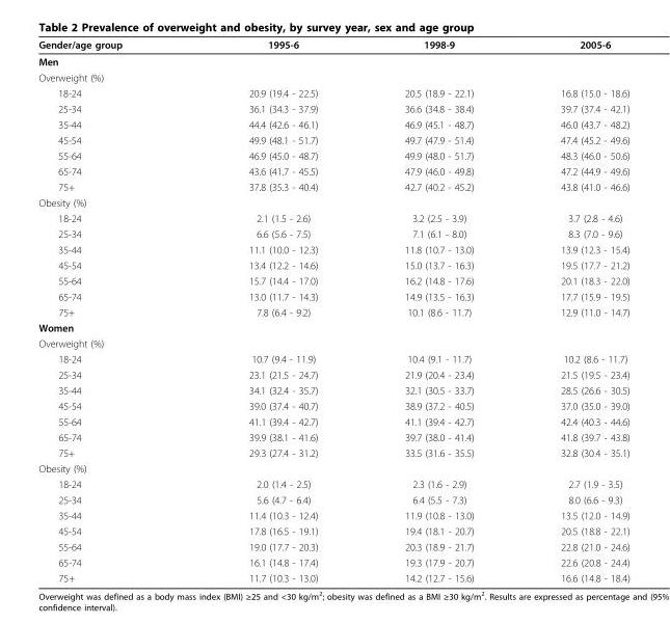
<table><thead><tr><td>Gender/age group</td><td>1995-6</td><td>1998-9</td><td>2005-6</td></tr></thead><tbody><tr><td colspan="4">Men</td></tr><tr><td colspan="4">Overweight (%)</td></tr><tr><td>18-24</td><td>20.9 (19.4 - 22.5)</td><td>20.5 (18.9 - 22.1)</td><td>16.8 (15.0 - 18.6)</td></tr><tr><td>25-34</td><td>36.1 (34.3 - 37.9)</td><td>36.6 (34.8 - 38.4)</td><td>39.7 (37.4 - 42.1)</td></tr><tr><td>35-44</td><td>44.4 (42.6 - 46.1)</td><td>46.9 (45.1 - 48.7)</td><td>46.0 (43.7 - 48.2)</td></tr><tr><td>45-54</td><td>49.9 (48.1 - 51.7)</td><td>49.7 (47.9 - 51.4)</td><td>47.4 (45.2 - 49.6)</td></tr><tr><td>55-64</td><td>46.9 (45.0 - 48.7)</td><td>49.9 (48.0 - 51.7)</td><td>48.3 (46.0 - 50.6)</td></tr><tr><td>65-74</td><td>43.6 (41.7 - 45.5)</td><td>47.9 (46.0 - 49.8)</td><td>47.2 (44.9 - 49.6)</td></tr><tr><td>75+</td><td>37.8 (35.3 - 40.4)</td><td>42.7 (40.2 - 45.2)</td><td>43.8 (41.0 - 46.6)</td></tr><tr><td colspan="4">Obesity (%)</td></tr><tr><td>18-24</td><td>2.1 (1.5 - 2.6)</td><td>3.2 (2.5 - 3.9)</td><td>3.7 (2.8 - 4.6)</td></tr><tr><td>25-34</td><td>6.6 (5.6 - 7.5)</td><td>7.1 (6.1 - 8.0)</td><td>8.3 (7.0 - 9.6)</td></tr><tr><td>35-44</td><td>11.1 (10.0 - 12.3)</td><td>11.8 (10.7 - 13.0)</td><td>13.9 (12.3 - 15.4)</td></tr><tr><td>45-54</td><td>13.4 (12.2 - 14.6)</td><td>15.0 (13.7 - 16.3)</td><td>19.5 (17.7 - 21.2)</td></tr><tr><td>55-64</td><td>15.7 (14.4 - 17.0)</td><td>16.2 (14.8 - 17.6)</td><td>20.1 (18.3 - 22.0)</td></tr><tr><td>65-74</td><td>13.0 (11.7 - 14.3)</td><td>14.9 (13.5 - 16.3)</td><td>17.7 (15.9 - 19.5)</td></tr><tr><td>75+</td><td>7.8 (6.4 - 9.2)</td><td>10.1 (8.6 - 11.7)</td><td>12.9 (11.0 - 14.7)</td></tr><tr><td colspan="4">Women</td></tr><tr><td colspan="4">Overweight (%)</td></tr><tr><td>18-24</td><td>10.7 (9.4 - 11.9)</td><td>10.4 (9.1 - 11.7)</td><td>10.2 (8.6 - 11.7)</td></tr><tr><td>25-34</td><td>23.1 (21.5 - 24.7)</td><td>21.9 (20.4 - 23.4)</td><td>21.5 (19.5 - 23.4)</td></tr><tr><td>35-44</td><td>34.1 (32.4 - 35.7)</td><td>32.1 (30.5 - 33.7)</td><td>28.5 (26.6 - 30.5)</td></tr><tr><td>45-54</td><td>39.0 (37.4 - 40.7)</td><td>38.9 (37.2 - 40.5)</td><td>37.0 (35.0 - 39.0)</td></tr><tr><td>55-64</td><td>41.1 (39.4 - 42.7)</td><td>41.1 (39.4 - 42.7)</td><td>42.4 (40.3 - 44.6)</td></tr><tr><td>65-74</td><td>39.9 (38.1 - 41.6)</td><td>39.7 (38.0 - 41.4)</td><td>41.8 (39.7 - 43.8)</td></tr><tr><td>75+</td><td>29.3 (27.4 - 31.2)</td><td>33.5 (31.6 - 35.5)</td><td>32.8 (30.4 - 35.1)</td></tr><tr><td colspan="4">Obesity (%)</td></tr><tr><td>18-24</td><td>2.0 (1.4 - 2.5)</td><td>2.3 (1.6 - 2.9)</td><td>2.7 (1.9 - 3.5)</td></tr><tr><td>25-34</td><td>5.6 (4.7 - 6.4)</td><td>6.4 (5.5 - 7.3)</td><td>8.0 (6.6 - 9.3)</td></tr><tr><td>35-44</td><td>11.4 (10.3 - 12.4)</td><td>11.9 (10.8 - 13.0)</td><td>13.5 (12.0 - 14.9)</td></tr><tr><td>45-54</td><td>17.8 (16.5 - 19.1)</td><td>19.4 (18.1 - 20.7)</td><td>20.5 (18.8 - 22.1)</td></tr><tr><td>55-64</td><td>19.0 (17.7 - 20.3)</td><td>20.3 (18.9 - 21.7)</td><td>22.8 (21.0 - 24.6)</td></tr><tr><td>65-74</td><td>16.1 (14.8 - 17.4)</td><td>19.3 (17.9 - 20.7)</td><td>22.6 (20.8 - 24.4)</td></tr><tr><td>75+</td><td>11.7 (10.3 - 13.0)</td><td>14.2 (12.7 - 15.6)</td><td>16.6 (14.8 - 18.4)</td></tr></tbody></table>